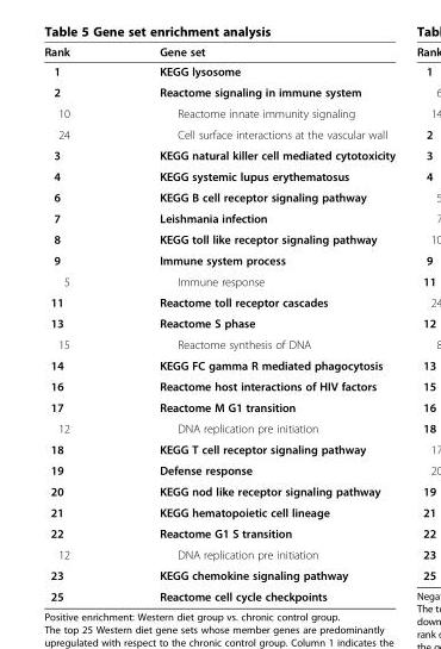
<table><thead><tr><td>Rank</td><td>Gene set</td></tr></thead><tbody><tr><td>1</td><td>KEGG lysosome</td></tr><tr><td>2</td><td>Reactome signaling in immune system</td></tr><tr><td>10</td><td>Reactome innate immunity signaling</td></tr><tr><td>24</td><td>Cell surface interactions at the vascular wall</td></tr><tr><td>3</td><td>KEGG natural killer cell mediated cytotoxicity</td></tr><tr><td>4</td><td>KEGG systemic lupus erythematosus</td></tr><tr><td>6</td><td>KEGG B cell receptor signaling pathway</td></tr><tr><td>7</td><td>Leishmania infection</td></tr><tr><td>8</td><td>KEGG toll like receptor signaling pathway</td></tr><tr><td>9</td><td>Immune system process</td></tr><tr><td>5</td><td>Immune response</td></tr><tr><td>11</td><td>Reactome toll receptor cascades</td></tr><tr><td>13</td><td>Reactome S phase</td></tr><tr><td>15</td><td>Reactome synthesis of DNA</td></tr><tr><td>14</td><td>KEGG FC gamma R mediated phagocytosis</td></tr><tr><td>16</td><td>Reactome host interactions of HIV factors</td></tr><tr><td>17</td><td>Reactome M G1 transition</td></tr><tr><td>12</td><td>DNA replication pre initiation</td></tr><tr><td>18</td><td>KEGG T cell receptor signaling pathway</td></tr><tr><td>19</td><td>Defense response</td></tr><tr><td>20</td><td>KEGG nod like receptor signaling pathway</td></tr><tr><td>21</td><td>KEGG hematopoietic cell lineage</td></tr><tr><td>22</td><td>Reactome G1 S transition</td></tr><tr><td>12</td><td>DNA replication pre initiation</td></tr><tr><td>23</td><td>KEGG chemokine signaling pathway</td></tr><tr><td>25</td><td>Reactome cell cycle checkpoints</td></tr></tbody></table>